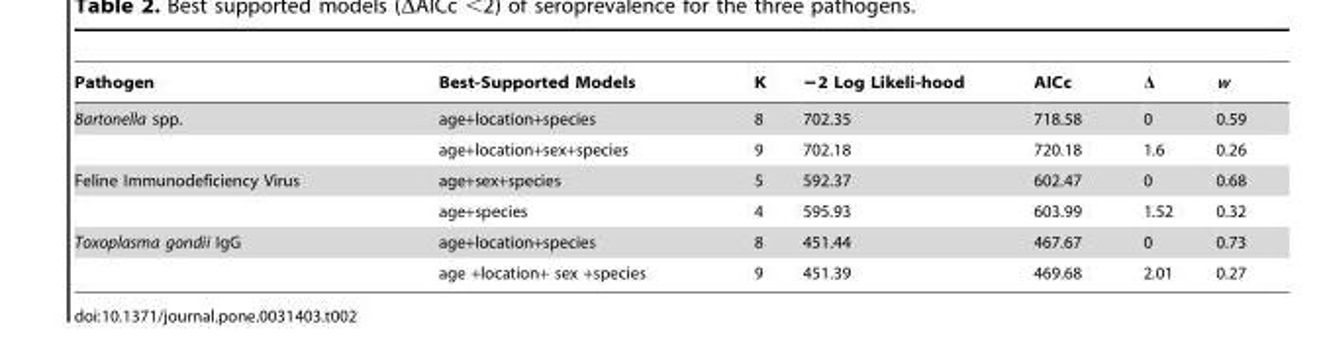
<table><thead><tr><td>Pathogen</td><td>Best-Supported Models</td><td>K</td><td>−2 Log Likeli-hood</td><td>AICc</td><td>Δ</td><td>w</td></tr></thead><tbody><tr><td rowspan="2">Bartonella spp.</td><td>age+location+species</td><td>8</td><td>702.35</td><td>718.58</td><td>0</td><td>0.59</td></tr><tr><td>age+location+sex+species</td><td>9</td><td>702.18</td><td>720.18</td><td>1.6</td><td>0.26</td></tr><tr><td rowspan="2">Feline Immunodeficiency Virus</td><td>age+sex+species</td><td>5</td><td>592.37</td><td>602.47</td><td>0</td><td>0.68</td></tr><tr><td>age+species</td><td>4</td><td>595.93</td><td>603.99</td><td>1.52</td><td>0.32</td></tr><tr><td rowspan="2">Toxoplasma gondii IgG</td><td>age+location+species</td><td>8</td><td>451.44</td><td>467.67</td><td>0</td><td>0.73</td></tr><tr><td>age +location+ sex +species</td><td>9</td><td>451.39</td><td>469.68</td><td>2.01</td><td>0.27</td></tr></tbody></table>